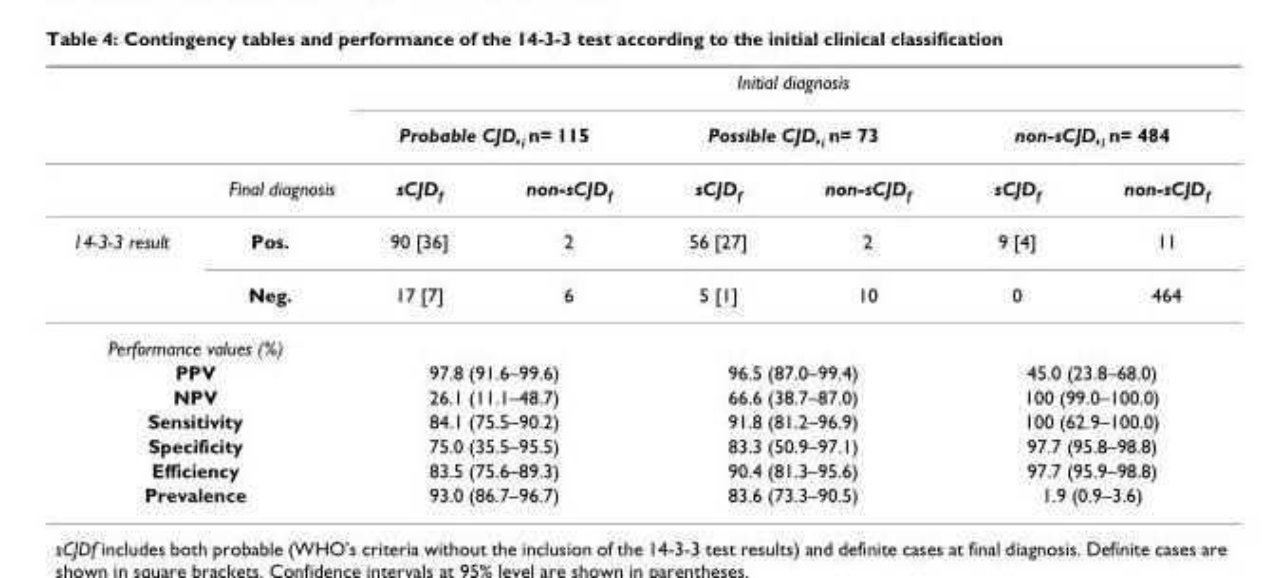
<table><thead><tr><td rowspan="2"></td><td rowspan="2"></td><td colspan="6">Initial diagnosis</td></tr><tr><td colspan="2">Probable CJD,i n= 115</td><td colspan="2">Possible CJD,i n= 73</td><td colspan="2">non-sCJD,i n= 484</td></tr><tr><td colspan="2">Final diagnosis</td><td>sCJDf</td><td>non-sCJDf</td><td>sCJDf</td><td>non-sCJDf</td><td>sCJDf</td><td>non-sCJDf</td></tr></thead><tbody><tr><td rowspan="2">14-3-3 result</td><td>Pos.</td><td>90 [36]</td><td>2</td><td>56 [27]</td><td>2</td><td>9 [4]</td><td>11</td></tr><tr><td>Neg.</td><td>17 [7]</td><td>6</td><td>5 [1]</td><td>10</td><td>0</td><td>464</td></tr><tr><td colspan="8">Performance values (%)</td></tr><tr><td colspan="2">PPV</td><td colspan="2">97.8 (91.6–99.6)</td><td colspan="2">96.5 (87.0–99.4)</td><td colspan="2">45.0 (23.8–68.0)</td></tr><tr><td colspan="2">NPV</td><td colspan="2">26.1 (11.1–48.7)</td><td colspan="2">66.6 (38.7–87.0)</td><td colspan="2">100 (99.0–100.0)</td></tr><tr><td colspan="2">Sensitivity</td><td colspan="2">84.1 (75.5–90.2)</td><td colspan="2">91.8 (81.2–96.9)</td><td colspan="2">100 (62.9–100.0)</td></tr><tr><td colspan="2">Specificity</td><td colspan="2">75.0 (35.5–95.5)</td><td colspan="2">83.3 (50.9–97.1)</td><td colspan="2">97.7 (95.8–98.8)</td></tr><tr><td colspan="2">Efficiency</td><td colspan="2">83.5 (75.6–89.3)</td><td colspan="2">90.4 (81.3–95.6)</td><td colspan="2">97.7 (95.9–98.8)</td></tr><tr><td colspan="2">Prevalence</td><td colspan="2">93.0 (86.7–96.7)</td><td colspan="2">83.6 (73.3–90.5)</td><td colspan="2">1.9 (0.9–3.6)</td></tr></tbody></table>